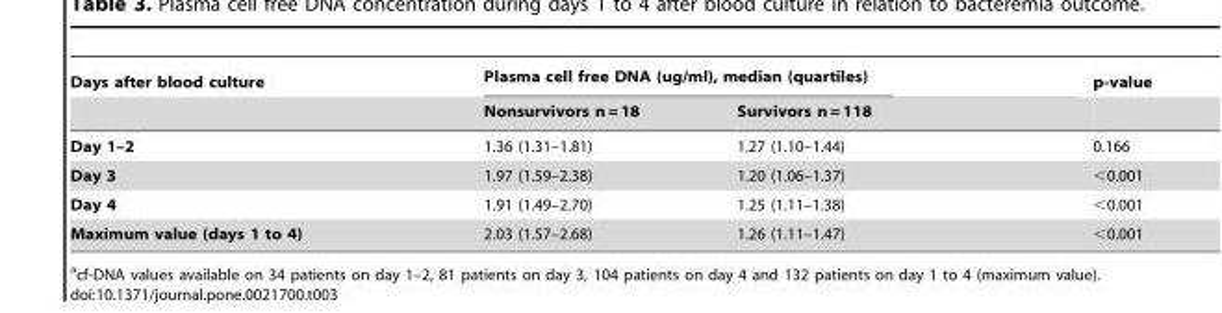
<table><thead><tr><td rowspan="2">Days after blood culture</td><td colspan="2">Plasma cell free DNA (ug/ml), median (quartiles)</td><td rowspan="2">p-value</td></tr><tr><td>Nonsurvivors n = 18</td><td>Survivors n = 118</td></tr></thead><tbody><tr><td>Day 1–2</td><td>1.36 (1.31–1.81)</td><td>1.27 (1.10–1.44)</td><td>0.166</td></tr><tr><td>Day 3</td><td>1.97 (1.59–2.38)</td><td>1.20 (1.06–1.37)</td><td>&lt;0.001</td></tr><tr><td>Day 4</td><td>1.91 (1.49–2.70)</td><td>1.25 (1.11–1.38)</td><td>&lt;0.001</td></tr><tr><td>Maximum value (days 1 to 4)</td><td>2.03 (1.57–2.68)</td><td>1.26 (1.11–1.47)</td><td>&lt;0.001</td></tr></tbody></table>